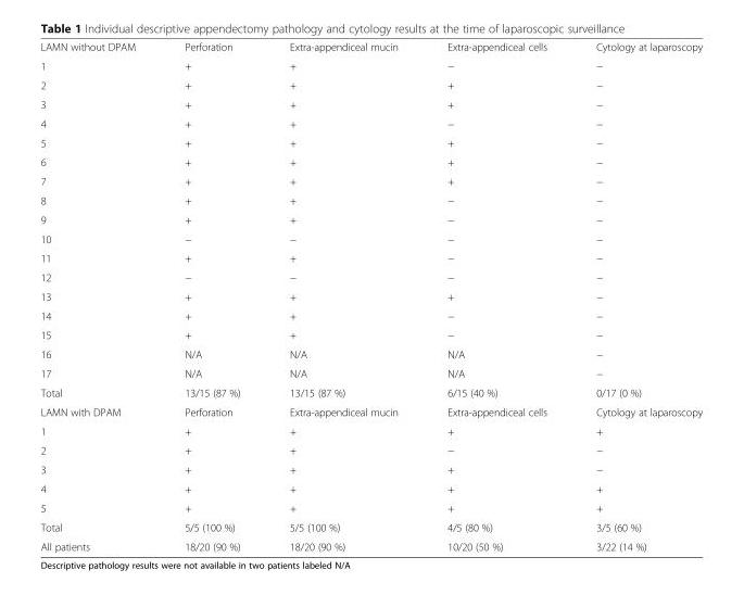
<table><tbody><tr><td>LAMN without DPAM</td><td>Perforation</td><td>Extra-appendiceal mucin</td><td>Extra-appendiceal cells</td><td>Cytology at laparoscopy</td></tr><tr><td>1</td><td>+</td><td>+</td><td>−</td><td>−</td></tr><tr><td>2</td><td>+</td><td>+</td><td>+</td><td>−</td></tr><tr><td>3</td><td>+</td><td>+</td><td>+</td><td>−</td></tr><tr><td>4</td><td>+</td><td>+</td><td>−</td><td>−</td></tr><tr><td>5</td><td>+</td><td>+</td><td>+</td><td>−</td></tr><tr><td>6</td><td>+</td><td>+</td><td>+</td><td>−</td></tr><tr><td>7</td><td>+</td><td>+</td><td>+</td><td>−</td></tr><tr><td>8</td><td>+</td><td>+</td><td>−</td><td>−</td></tr><tr><td>9</td><td>+</td><td>+</td><td>−</td><td>−</td></tr><tr><td>10</td><td>−</td><td>−</td><td>−</td><td>−</td></tr><tr><td>11</td><td>+</td><td>+</td><td>−</td><td>−</td></tr><tr><td>12</td><td>−</td><td>−</td><td>−</td><td>−</td></tr><tr><td>13</td><td>+</td><td>+</td><td>+</td><td>−</td></tr><tr><td>14</td><td>+</td><td>+</td><td>−</td><td>−</td></tr><tr><td>15</td><td>+</td><td>+</td><td>−</td><td>−</td></tr><tr><td>16</td><td>N/A</td><td>N/A</td><td>N/A</td><td>−</td></tr><tr><td>17</td><td>N/A</td><td>N/A</td><td>N/A</td><td>−</td></tr><tr><td>Total</td><td>13/15 (87 %)</td><td>13/15 (87 %)</td><td>6/15 (40 %)</td><td>0/17 (0 %)</td></tr><tr><td>LAMN with DPAM</td><td>Perforation</td><td>Extra-appendiceal mucin</td><td>Extra-appendiceal cells</td><td>Cytology at laparoscopy</td></tr><tr><td>1</td><td>+</td><td>+</td><td>+</td><td>+</td></tr><tr><td>2</td><td>+</td><td>+</td><td>−</td><td>−</td></tr><tr><td>3</td><td>+</td><td>+</td><td>+</td><td>−</td></tr><tr><td>4</td><td>+</td><td>+</td><td>+</td><td>+</td></tr><tr><td>5</td><td>+</td><td>+</td><td>+</td><td>+</td></tr><tr><td>Total</td><td>5/5 (100 %)</td><td>5/5 (100 %)</td><td>4/5 (80 %)</td><td>3/5 (60 %)</td></tr><tr><td>All patients</td><td>18/20 (90 %)</td><td>18/20 (90 %)</td><td>10/20 (50 %)</td><td>3/22 (14 %)</td></tr></tbody></table>